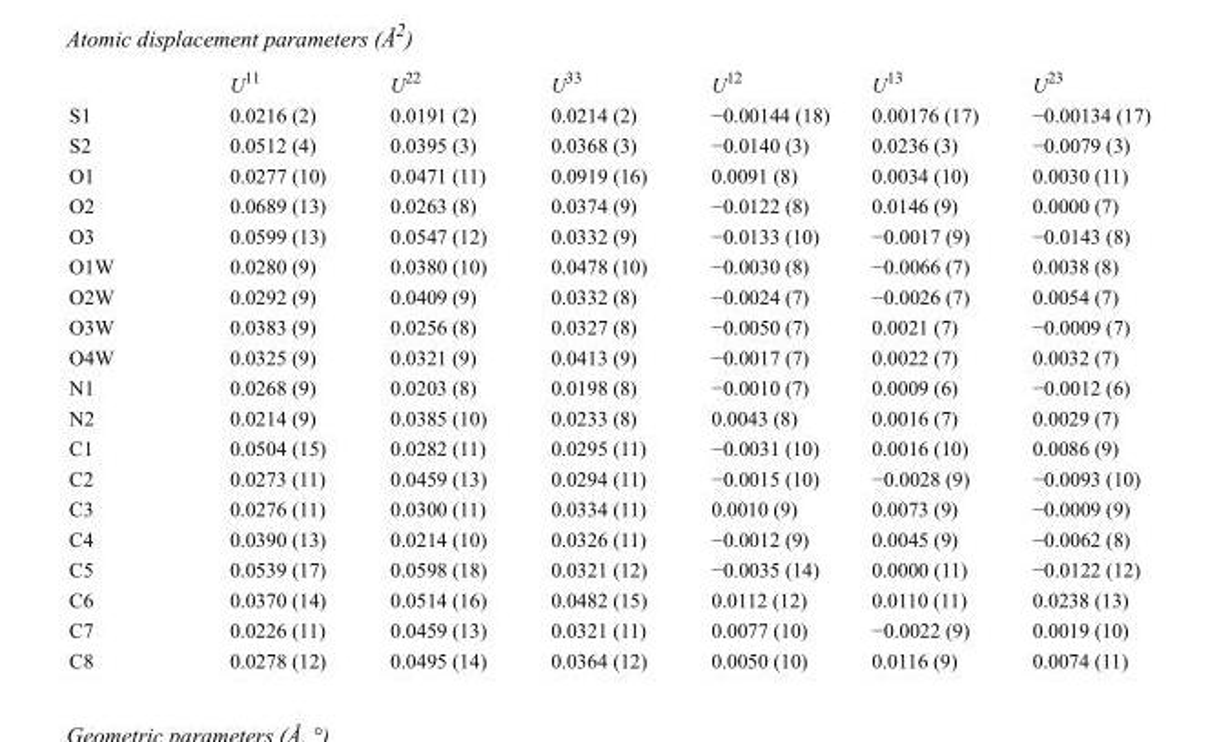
<table><thead><tr><td></td><td>U<sup>11</sup></td><td>U<sup>22</sup></td><td>U<sup>33</sup></td><td>U<sup>12</sup></td><td>U<sup>13</sup></td><td>U<sup>23</sup></td></tr></thead><tbody><tr><td>S1</td><td>0.0216 (2)</td><td>0.0191 (2)</td><td>0.0214 (2)</td><td>−0.00144 (18)</td><td>0.00176 (17)</td><td>−0.00134 (17)</td></tr><tr><td>S2</td><td>0.0512 (4)</td><td>0.0395 (3)</td><td>0.0368 (3)</td><td>−0.0140 (3)</td><td>0.0236 (3)</td><td>−0.0079 (3)</td></tr><tr><td>O1</td><td>0.0277 (10)</td><td>0.0471 (11)</td><td>0.0919 (16)</td><td>0.0091 (8)</td><td>0.0034 (10)</td><td>0.0030 (11)</td></tr><tr><td>O2</td><td>0.0689 (13)</td><td>0.0263 (8)</td><td>0.0374 (9)</td><td>−0.0122 (8)</td><td>0.0146 (9)</td><td>0.0000 (7)</td></tr><tr><td>O3</td><td>0.0599 (13)</td><td>0.0547 (12)</td><td>0.0332 (9)</td><td>−0.0133 (10)</td><td>−0.0017 (9)</td><td>−0.0143 (8)</td></tr><tr><td>O1W</td><td>0.0280 (9)</td><td>0.0380 (10)</td><td>0.0478 (10)</td><td>−0.0030 (8)</td><td>−0.0066 (7)</td><td>0.0038 (8)</td></tr><tr><td>O2W</td><td>0.0292 (9)</td><td>0.0409 (9)</td><td>0.0332 (8)</td><td>−0.0024 (7)</td><td>−0.0026 (7)</td><td>0.0054 (7)</td></tr><tr><td>O3W</td><td>0.0383 (9)</td><td>0.0256 (8)</td><td>0.0327 (8)</td><td>−0.0050 (7)</td><td>0.0021 (7)</td><td>−0.0009 (7)</td></tr><tr><td>O4W</td><td>0.0325 (9)</td><td>0.0321 (9)</td><td>0.0413 (9)</td><td>−0.0017 (7)</td><td>0.0022 (7)</td><td>0.0032 (7)</td></tr><tr><td>N1</td><td>0.0268 (9)</td><td>0.0203 (8)</td><td>0.0198 (8)</td><td>−0.0010 (7)</td><td>0.0009 (6)</td><td>−0.0012 (6)</td></tr><tr><td>N2</td><td>0.0214 (9)</td><td>0.0385 (10)</td><td>0.0233 (8)</td><td>0.0043 (8)</td><td>0.0016 (7)</td><td>0.0029 (7)</td></tr><tr><td>C1</td><td>0.0504 (15)</td><td>0.0282 (11)</td><td>0.0295 (11)</td><td>−0.0031 (10)</td><td>0.0016 (10)</td><td>0.0086 (9)</td></tr><tr><td>C2</td><td>0.0273 (11)</td><td>0.0459 (13)</td><td>0.0294 (11)</td><td>−0.0015 (10)</td><td>−0.0028 (9)</td><td>−0.0093 (10)</td></tr><tr><td>C3</td><td>0.0276 (11)</td><td>0.0300 (11)</td><td>0.0334 (11)</td><td>0.0010 (9)</td><td>0.0073 (9)</td><td>−0.0009 (9)</td></tr><tr><td>C4</td><td>0.0390 (13)</td><td>0.0214 (10)</td><td>0.0326 (11)</td><td>−0.0012 (9)</td><td>0.0045 (9)</td><td>−0.0062 (8)</td></tr><tr><td>C5</td><td>0.0539 (17)</td><td>0.0598 (18)</td><td>0.0321 (12)</td><td>−0.0035 (14)</td><td>0.0000 (11)</td><td>−0.0122 (12)</td></tr><tr><td>C6</td><td>0.0370 (14)</td><td>0.0514 (16)</td><td>0.0482 (15)</td><td>0.0112 (12)</td><td>0.0110 (11)</td><td>0.0238 (13)</td></tr><tr><td>C7</td><td>0.0226 (11)</td><td>0.0459 (13)</td><td>0.0321 (11)</td><td>0.0077 (10)</td><td>−0.0022 (9)</td><td>0.0019 (10)</td></tr><tr><td>C8</td><td>0.0278 (12)</td><td>0.0495 (14)</td><td>0.0364 (12)</td><td>0.0050 (10)</td><td>0.0116 (9)</td><td>0.0074 (11)</td></tr></tbody></table>